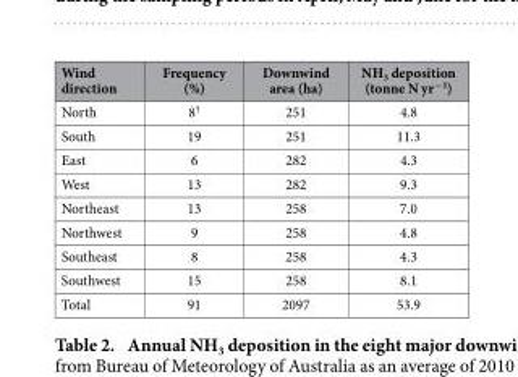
<table><thead><tr><td>Wind direction</td><td>Frequency (%)</td><td>Downwind area (ha)</td><td>NH<sub>3</sub> deposition (tonne N yr<sup>−1</sup>)</td></tr></thead><tbody><tr><td>North</td><td>8†</td><td>251</td><td>4.8</td></tr><tr><td>South</td><td>19</td><td>251</td><td>11.3</td></tr><tr><td>East</td><td>6</td><td>282</td><td>4.3</td></tr><tr><td>West</td><td>13</td><td>282</td><td>9.3</td></tr><tr><td>Northeast</td><td>13</td><td>258</td><td>7.0</td></tr><tr><td>Northwest</td><td>9</td><td>258</td><td>4.8</td></tr><tr><td>Southeast</td><td>8</td><td>258</td><td>4.3</td></tr><tr><td>Southwest</td><td>15</td><td>258</td><td>8.1</td></tr><tr><td>Total</td><td>91</td><td>2097</td><td>53.9</td></tr></tbody></table>